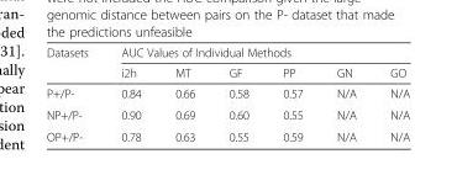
<table><thead><tr><td rowspan="2">Datasets</td><td colspan="6">AUC Values of Individual Methods</td></tr><tr><td>i2h</td><td>MT</td><td>GF</td><td>PP</td><td>GN</td><td>GO</td></tr></thead><tbody><tr><td>P+/P-</td><td>0.84</td><td>0.66</td><td>0.58</td><td>0.57</td><td>N/A</td><td>N/A</td></tr><tr><td>NP+/P-</td><td>0.90</td><td>0.69</td><td>0.60</td><td>0.55</td><td>N/A</td><td>N/A</td></tr><tr><td>OP+/P-</td><td>0.78</td><td>0.63</td><td>0.55</td><td>0.59</td><td>N/A</td><td>N/A</td></tr></tbody></table>